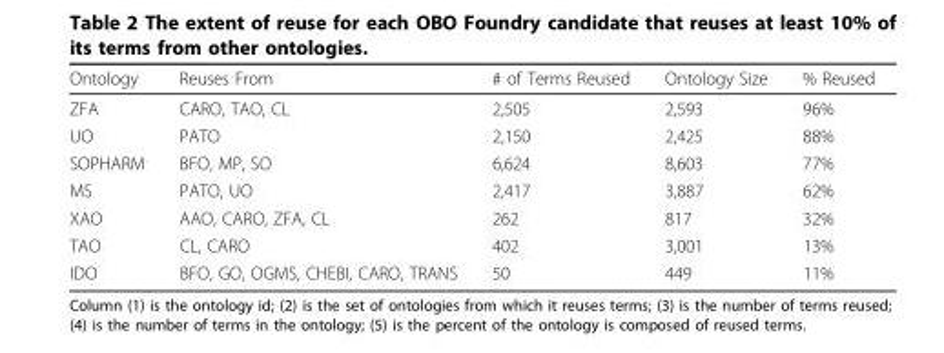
<table><thead><tr><td>Ontology</td><td>Reuses From</td><td># of Terms Reused</td><td>Ontology Size</td><td>% Reused</td></tr></thead><tbody><tr><td>ZFA</td><td>CARO, TAO, CL</td><td>2,505</td><td>2,593</td><td>96%</td></tr><tr><td>UO</td><td>PATO</td><td>2,150</td><td>2,425</td><td>88%</td></tr><tr><td>SOPHARM</td><td>BFO, MP, SO</td><td>6,624</td><td>8,603</td><td>77%</td></tr><tr><td>MS</td><td>PATO, UO</td><td>2,417</td><td>3,887</td><td>62%</td></tr><tr><td>XAO</td><td>AAO, CARO, ZFA, CL</td><td>262</td><td>817</td><td>32%</td></tr><tr><td>TAO</td><td>CL, CARO</td><td>402</td><td>3,001</td><td>13%</td></tr><tr><td>IDO</td><td>BFO, GO, OGMS, CHEBI, CARO, TRANS</td><td>50</td><td>449</td><td>11%</td></tr></tbody></table>